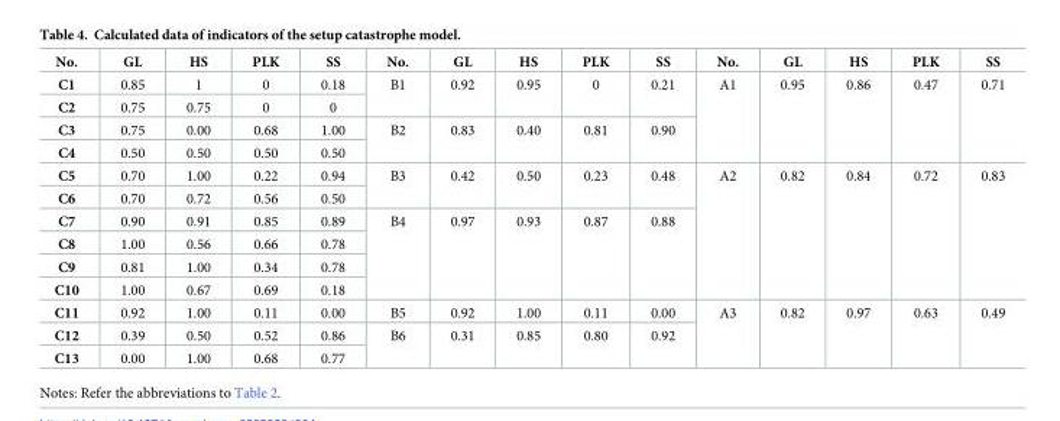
<table><thead><tr><td>No.</td><td>GL</td><td>HS</td><td>PLK</td><td>SS</td><td>No.</td><td>GL</td><td>HS</td><td>PLK</td><td>SS</td><td>No.</td><td>GL</td><td>HS</td><td>PLK</td><td>SS</td></tr></thead><tbody><tr><td>C1</td><td>0.85</td><td>1</td><td>0</td><td>0.18</td><td rowspan="2">B1</td><td rowspan="2">0.92</td><td rowspan="2">0.95</td><td rowspan="2">0</td><td rowspan="2">0.21</td><td rowspan="4">A1</td><td rowspan="4">0.95</td><td rowspan="4">0.86</td><td rowspan="4">0.47</td><td rowspan="4">0.71</td></tr><tr><td>C2</td><td>0.75</td><td>0.75</td><td>0</td><td>0</td></tr><tr><td>C3</td><td>0.75</td><td>0.00</td><td>0.68</td><td>1.00</td><td rowspan="2">B2</td><td rowspan="2">0.83</td><td rowspan="2">0.40</td><td rowspan="2">0.81</td><td rowspan="2">0.90</td></tr><tr><td>C4</td><td>0.50</td><td>0.50</td><td>0.50</td><td>0.50</td></tr><tr><td>C5</td><td>0.70</td><td>1.00</td><td>0.22</td><td>0.94</td><td rowspan="2">B3</td><td rowspan="2">0.42</td><td rowspan="2">0.50</td><td rowspan="2">0.23</td><td rowspan="2">0.48</td><td rowspan="6">A2</td><td rowspan="6">0.82</td><td rowspan="6">0.84</td><td rowspan="6">0.72</td><td rowspan="6">0.83</td></tr><tr><td>C6</td><td>0.70</td><td>0.72</td><td>0.56</td><td>0.50</td></tr><tr><td>C7</td><td>0.90</td><td>0.91</td><td>0.85</td><td>0.89</td><td rowspan="4">B4</td><td rowspan="4">0.97</td><td rowspan="4">0.93</td><td rowspan="4">0.87</td><td rowspan="4">0.88</td></tr><tr><td>C8</td><td>1.00</td><td>0.56</td><td>0.66</td><td>0.78</td></tr><tr><td>C9</td><td>0.81</td><td>1.00</td><td>0.34</td><td>0.78</td></tr><tr><td>C10</td><td>1.00</td><td>0.67</td><td>0.69</td><td>0.18</td></tr><tr><td>C11</td><td>0.92</td><td>1.00</td><td>0.11</td><td>0.00</td><td>B5</td><td>0.92</td><td>1.00</td><td>0.11</td><td>0.00</td><td rowspan="3">A3</td><td rowspan="3">0.82</td><td rowspan="3">0.97</td><td rowspan="3">0.63</td><td rowspan="3">0.49</td></tr><tr><td>C12</td><td>0.39</td><td>0.50</td><td>0.52</td><td>0.86</td><td rowspan="2">B6</td><td rowspan="2">0.31</td><td rowspan="2">0.85</td><td rowspan="2">0.80</td><td rowspan="2">0.92</td></tr><tr><td>C13</td><td>0.00</td><td>1.00</td><td>0.68</td><td>0.77</td></tr></tbody></table>